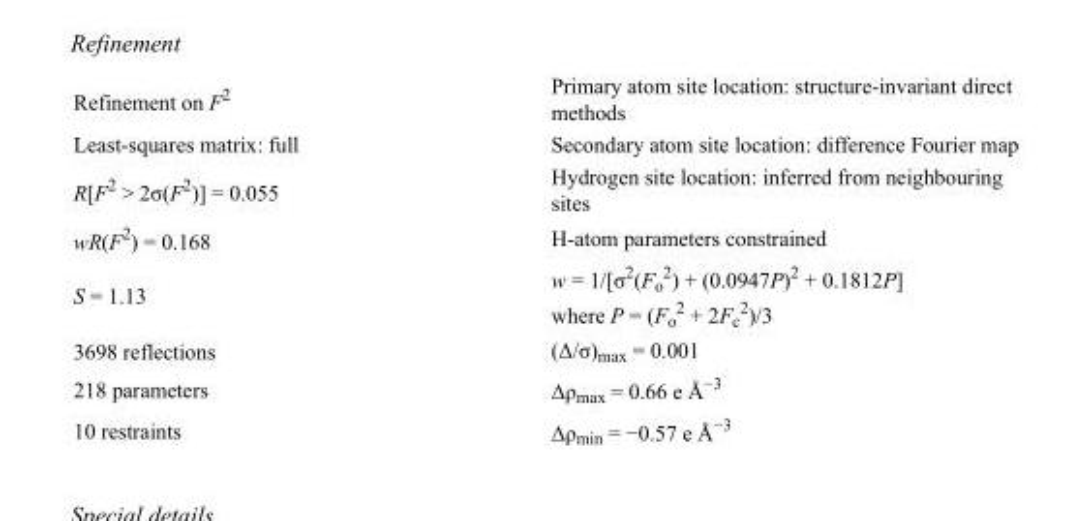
<table><tbody><tr><td>Refinement on F<sup>2</sup></td><td>Primary atom site location: structure-invariant direct methods</td></tr><tr><td>Least-squares matrix: full</td><td>Secondary atom site location: difference Fourier map</td></tr><tr><td>R[F<sup>2</sup> &gt; 2σ(F<sup>2</sup>)] = 0.055</td><td>Hydrogen site location: inferred from neighbouring sites</td></tr><tr><td>wR(F<sup>2</sup>) = 0.168</td><td>H-atom parameters constrained</td></tr><tr><td>S = 1.13</td><td>w = 1/[σ<sup>2</sup>(F<sub>o</sub> <sup>2</sup>) + (0.0947P)<sup>2</sup> + 0.1812P] where P = (F<sub>o</sub> <sup>2</sup> + 2F<sub>c</sub> <sup>2</sup>)/3</td></tr><tr><td>3698 reflections</td><td>(Δ/σ)<sub>max</sub> = 0.001</td></tr><tr><td>218 parameters</td><td>Δρ<sub>max</sub> = 0.66 e Å<sup>−3</sup></td></tr><tr><td>10 restraints</td><td>Δρ<sub>min</sub> = −0.57 e Å<sup>−3</sup></td></tr></tbody></table>